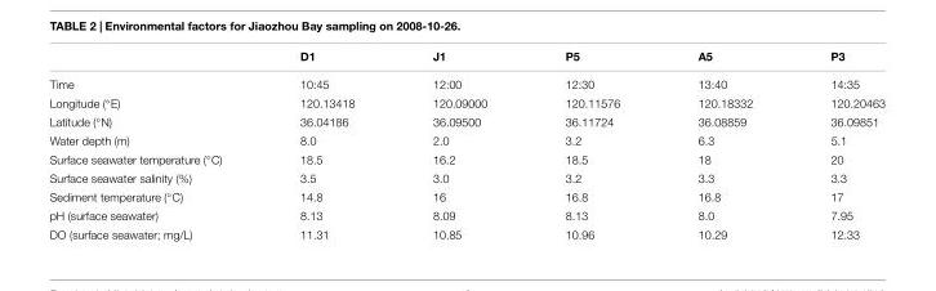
<table><thead><tr><td></td><td>D1</td><td>J1</td><td>P5</td><td>A5</td><td>P3</td></tr></thead><tbody><tr><td>Time</td><td>10:45</td><td>12:00</td><td>12:30</td><td>13:40</td><td>14:35</td></tr><tr><td>Longitude (◦E)</td><td>120.13418</td><td>120.09000</td><td>120.11576</td><td>120.18332</td><td>120.20463</td></tr><tr><td>Latitude (◦N)</td><td>36.04186</td><td>36.09500</td><td>36.11724</td><td>36.08859</td><td>36.09851</td></tr><tr><td>Water depth (m)</td><td>8.0</td><td>2.0</td><td>3.2</td><td>6.3</td><td>5.1</td></tr><tr><td>Surface seawater temperature (◦C)</td><td>18.5</td><td>16.2</td><td>18.5</td><td>18</td><td>20</td></tr><tr><td>Surface seawater salinity (%)</td><td>3.5</td><td>3.0</td><td>3.2</td><td>3.3</td><td>3.3</td></tr><tr><td>Sediment temperature (◦C)</td><td>14.8</td><td>16</td><td>16.8</td><td>16.8</td><td>17</td></tr><tr><td>pH (surface seawater)</td><td>8.13</td><td>8.09</td><td>8.13</td><td>8.0</td><td>7.95</td></tr><tr><td>DO (surface seawater; mg/L)</td><td>11.31</td><td>10.85</td><td>10.96</td><td>10.29</td><td>12.33</td></tr></tbody></table>